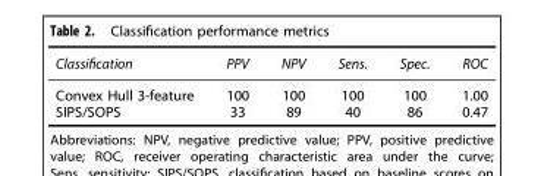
<table><thead><tr><td>Classification</td><td>PPV</td><td>NPV</td><td>Sens.</td><td>Spec.</td><td>ROC</td></tr></thead><tbody><tr><td>Convex Hull 3-feature</td><td>100</td><td>100</td><td>100</td><td>100</td><td>1.00</td></tr><tr><td>SIPS/SOPS</td><td>33</td><td>89</td><td>40</td><td>86</td><td>0.47</td></tr></tbody></table>